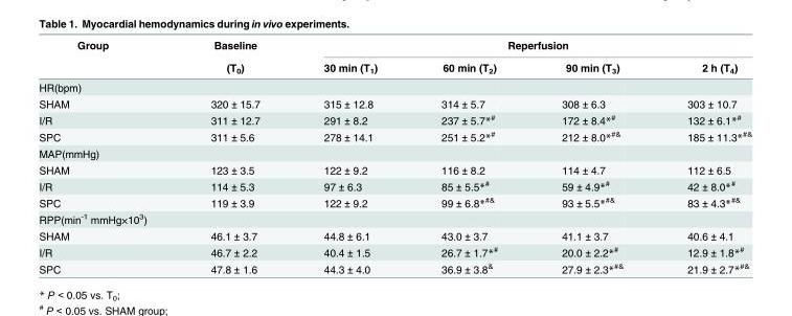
<table><thead><tr><td rowspan="2">Group</td><td rowspan="2">Baseline (T<sub>0</sub>)</td><td colspan="4">Reperfusion</td></tr><tr><td>30 min (T<sub>1</sub>)</td><td>60 min (T<sub>2</sub>)</td><td>90 min (T<sub>3</sub>)</td><td>2 h (T<sub>4</sub>)</td></tr></thead><tbody><tr><td colspan="6">HR(bpm)</td></tr><tr><td>SHAM</td><td>320 ± 15.7</td><td>315 ± 12.8</td><td>314 ± 5.7</td><td>308 ± 6.3</td><td>303 ± 10.7</td></tr><tr><td>I/R</td><td>311 ± 12.7</td><td>291 ± 8.2</td><td>237 ± 5.7*<sup>#</sup></td><td>172 ± 8.4*<sup>#</sup></td><td>132 ± 6.1*<sup>#</sup></td></tr><tr><td>SPC</td><td>311 ± 5.6</td><td>278 ± 14.1</td><td>251 ± 5.2*<sup>#</sup></td><td>212 ± 8.0*<sup>#&amp;</sup></td><td>185 ± 11.3*<sup>#&amp;</sup></td></tr><tr><td colspan="6">MAP(mmHg)</td></tr><tr><td>SHAM</td><td>123 ± 3.5</td><td>122 ± 9.2</td><td>116 ± 8.2</td><td>114 ± 4.7</td><td>112 ± 6.5</td></tr><tr><td>I/R</td><td>114 ± 5.3</td><td>97 ± 6.3</td><td>85 ± 5.5*<sup>#</sup></td><td>59 ± 4.9*<sup>#</sup></td><td>42 ± 8.0*<sup>#</sup></td></tr><tr><td>SPC</td><td>119 ± 3.9</td><td>122 ± 9.2</td><td>99 ± 6.8*<sup>#&amp;</sup></td><td>93 ± 5.5*<sup>#&amp;</sup></td><td>83 ± 4.3*<sup>#&amp;</sup></td></tr><tr><td colspan="6">RPP(min<sup>-1</sup> mmHg×10<sup>3</sup>)</td></tr><tr><td>SHAM</td><td>46.1 ± 3.7</td><td>44.8 ± 6.1</td><td>43.0 ± 3.7</td><td>41.1 ± 3.7</td><td>40.6 ± 4.1</td></tr><tr><td>I/R</td><td>46.7 ± 2.2</td><td>40.4 ± 1.5</td><td>26.7 ± 1.7*<sup>#</sup></td><td>20.0 ± 2.2*<sup>#</sup></td><td>12.9 ± 1.8*<sup>#</sup></td></tr><tr><td>SPC</td><td>47.8 ± 1.6</td><td>44.3 ± 4.0</td><td>36.9 ± 3.8<sup>&amp;</sup></td><td>27.9 ± 2.3*<sup>#&amp;</sup></td><td>21.9 ± 2.7*<sup>#&amp;</sup></td></tr></tbody></table>